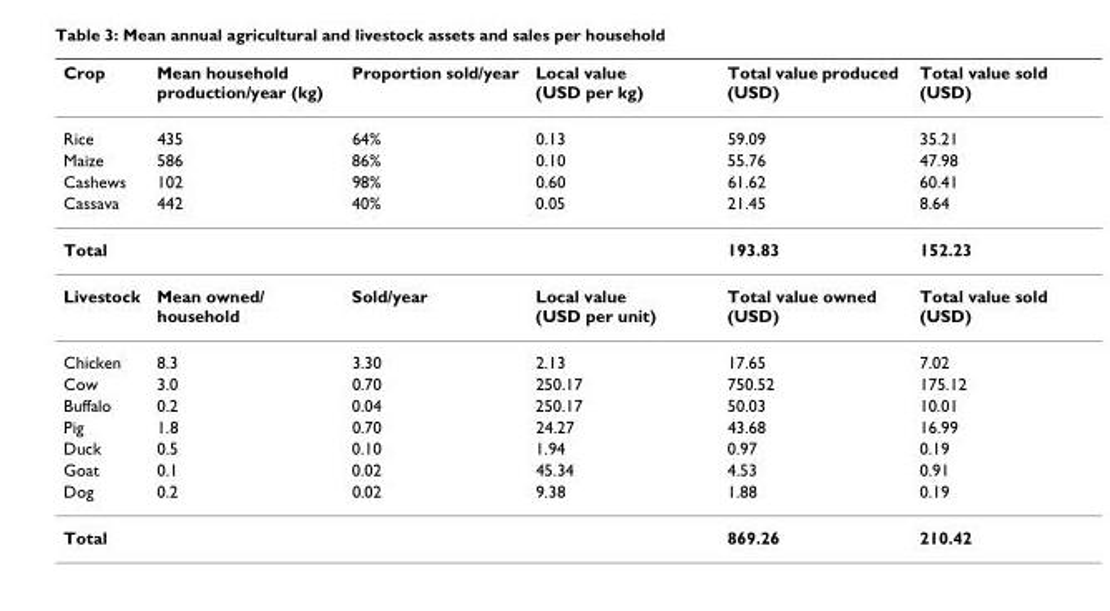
<table><thead><tr><td>Crop</td><td>Mean household production/year (kg)</td><td>Proportion sold/year</td><td>Local value (USD per kg)</td><td>Total value produced (USD)</td><td>Total value sold (USD)</td></tr></thead><tbody><tr><td>Rice</td><td>435</td><td>64%</td><td>0.13</td><td>59.09</td><td>35.21</td></tr><tr><td>Maize</td><td>586</td><td>86%</td><td>0.10</td><td>55.76</td><td>47.98</td></tr><tr><td>Cashews</td><td>102</td><td>98%</td><td>0.60</td><td>61.62</td><td>60.41</td></tr><tr><td>Cassava</td><td>442</td><td>40%</td><td>0.05</td><td>21.45</td><td>8.64</td></tr><tr><td>Total</td><td></td><td></td><td></td><td>193.83</td><td>152.23</td></tr><tr><td>Livestock</td><td>Mean owned/ household</td><td>Sold/year</td><td>Local value (USD per unit)</td><td>Total value owned (USD)</td><td>Total value sold (USD)</td></tr><tr><td>Chicken</td><td>8.3</td><td>3.30</td><td>2.13</td><td>17.65</td><td>7.02</td></tr><tr><td>Cow</td><td>3.0</td><td>0.70</td><td>250.17</td><td>750.52</td><td>175.12</td></tr><tr><td>Buffalo</td><td>0.2</td><td>0.04</td><td>250.17</td><td>50.03</td><td>10.01</td></tr><tr><td>Pig</td><td>1.8</td><td>0.70</td><td>24.27</td><td>43.68</td><td>16.99</td></tr><tr><td>Duck</td><td>0.5</td><td>0.10</td><td>1.94</td><td>0.97</td><td>0.19</td></tr><tr><td>Goat</td><td>0.1</td><td>0.02</td><td>45.34</td><td>4.53</td><td>0.91</td></tr><tr><td>Dog</td><td>0.2</td><td>0.02</td><td>9.38</td><td>1.88</td><td>0.19</td></tr><tr><td>Total</td><td></td><td></td><td></td><td>869.26</td><td>210.42</td></tr></tbody></table>